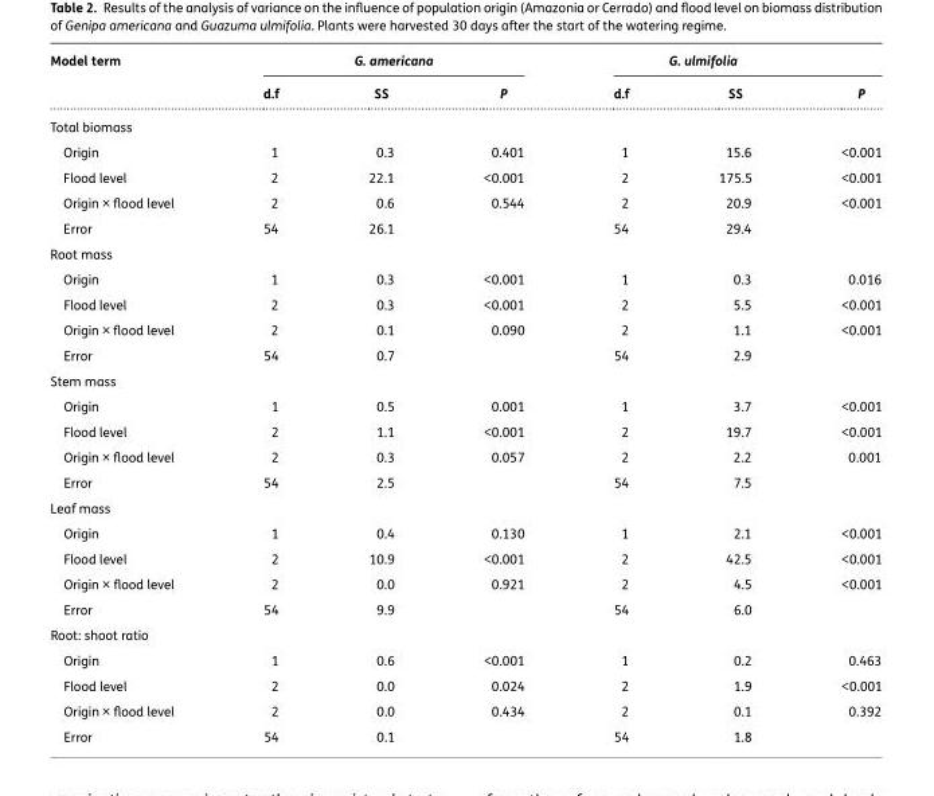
<table><thead><tr><td rowspan="2">Model term</td><td colspan="3">G. americana</td><td colspan="3">G. ulmifolia</td></tr><tr><td>d.f</td><td>SS</td><td>P</td><td>d.f</td><td>SS</td><td>P</td></tr></thead><tbody><tr><td colspan="7">Total biomass</td></tr><tr><td>Origin</td><td>1</td><td>0.3</td><td>0.401</td><td>1</td><td>15.6</td><td>&lt;0.001</td></tr><tr><td>Flood level</td><td>2</td><td>22.1</td><td>&lt;0.001</td><td>2</td><td>175.5</td><td>&lt;0.001</td></tr><tr><td>Origin × flood level</td><td>2</td><td>0.6</td><td>0.544</td><td>2</td><td>20.9</td><td>&lt;0.001</td></tr><tr><td>Error</td><td>54</td><td>26.1</td><td></td><td>54</td><td>29.4</td><td></td></tr><tr><td colspan="7">Root mass</td></tr><tr><td>Origin</td><td>1</td><td>0.3</td><td>&lt;0.001</td><td>1</td><td>0.3</td><td>0.016</td></tr><tr><td>Flood level</td><td>2</td><td>0.3</td><td>&lt;0.001</td><td>2</td><td>5.5</td><td>&lt;0.001</td></tr><tr><td>Origin × flood level</td><td>2</td><td>0.1</td><td>0.090</td><td>2</td><td>1.1</td><td>&lt;0.001</td></tr><tr><td>Error</td><td>54</td><td>0.7</td><td></td><td>54</td><td>2.9</td><td></td></tr><tr><td colspan="7">Stem mass</td></tr><tr><td>Origin</td><td>1</td><td>0.5</td><td>0.001</td><td>1</td><td>3.7</td><td>&lt;0.001</td></tr><tr><td>Flood level</td><td>2</td><td>1.1</td><td>&lt;0.001</td><td>2</td><td>19.7</td><td>&lt;0.001</td></tr><tr><td>Origin × flood level</td><td>2</td><td>0.3</td><td>0.057</td><td>2</td><td>2.2</td><td>0.001</td></tr><tr><td>Error</td><td>54</td><td>2.5</td><td></td><td>54</td><td>7.5</td><td></td></tr><tr><td colspan="7">Leaf mass</td></tr><tr><td>Origin</td><td>1</td><td>0.4</td><td>0.130</td><td>1</td><td>2.1</td><td>&lt;0.001</td></tr><tr><td>Flood level</td><td>2</td><td>10.9</td><td>&lt;0.001</td><td>2</td><td>42.5</td><td>&lt;0.001</td></tr><tr><td>Origin × flood level</td><td>2</td><td>0.0</td><td>0.921</td><td>2</td><td>4.5</td><td>&lt;0.001</td></tr><tr><td>Error</td><td>54</td><td>9.9</td><td></td><td>54</td><td>6.0</td><td></td></tr><tr><td colspan="7">Root: shoot ratio</td></tr><tr><td>Origin</td><td>1</td><td>0.6</td><td>&lt;0.001</td><td>1</td><td>0.2</td><td>0.463</td></tr><tr><td>Flood level</td><td>2</td><td>0.0</td><td>0.024</td><td>2</td><td>1.9</td><td>&lt;0.001</td></tr><tr><td>Origin × flood level</td><td>2</td><td>0.0</td><td>0.434</td><td>2</td><td>0.1</td><td>0.392</td></tr><tr><td>Error</td><td>54</td><td>0.1</td><td></td><td>54</td><td>1.8</td><td></td></tr></tbody></table>